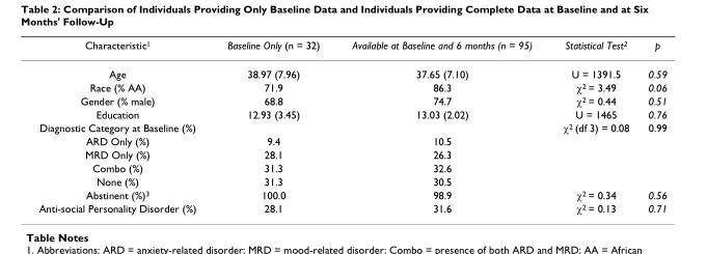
<table><thead><tr><td>Characteristic<sup>1</sup></td><td>Baseline Only (n = 32)</td><td>Available at Baseline and 6 months (n = 95)</td><td>Statistical Test<sup>2</sup></td><td>p</td></tr></thead><tbody><tr><td>Age</td><td>38.97 (7.96)</td><td>37.65 (7.10)</td><td>U = 1391.5</td><td>0.59</td></tr><tr><td>Race (% AA)</td><td>71.9</td><td>86.3</td><td>χ<sup>2</sup> = 3.49</td><td>0.06</td></tr><tr><td>Gender (% male)</td><td>68.8</td><td>74.7</td><td>χ<sup>2</sup> = 0.44</td><td>0.51</td></tr><tr><td>Education</td><td>12.93 (3.45)</td><td>13.03 (2.02)</td><td>U = 1465</td><td>0.76</td></tr><tr><td>Diagnostic Category at Baseline (%)</td><td></td><td></td><td>χ<sup>2</sup> (df 3) = 0.08</td><td>0.99</td></tr><tr><td>ARD Only (%)</td><td>9.4</td><td>10.5</td><td></td><td></td></tr><tr><td>MRD Only (%)</td><td>28.1</td><td>26.3</td><td></td><td></td></tr><tr><td>Combo (%)</td><td>31.3</td><td>32.6</td><td></td><td></td></tr><tr><td>None (%)</td><td>31.3</td><td>30.5</td><td></td><td></td></tr><tr><td>Abstinent (%)<sup>3</sup></td><td>100.0</td><td>98.9</td><td>χ<sup>2</sup> = 0.34</td><td>0.56</td></tr><tr><td>Anti-social Personality Disorder (%)</td><td>28.1</td><td>31.6</td><td>χ<sup>2</sup> = 0.13</td><td>0.71</td></tr></tbody></table>